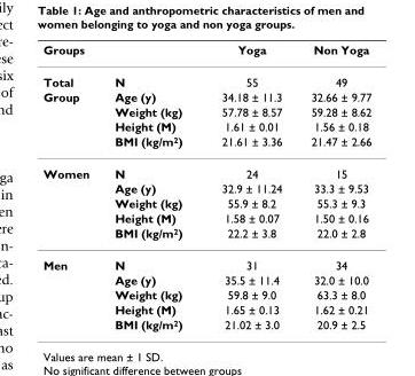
<table><thead><tr><td>Groups</td><td></td><td>Yoga</td><td>Non Yoga</td></tr></thead><tbody><tr><td>Total</td><td>N</td><td>55</td><td>49</td></tr><tr><td rowspan="4">Group</td><td>Age (y)</td><td>34.18 ± 11.3</td><td>32.66 ± 9.77</td></tr><tr><td>Weight (kg)</td><td>57.78 ± 8.57</td><td>59.28 ± 8.62</td></tr><tr><td>Height (M)</td><td>1.61 ± 0.01</td><td>1.56 ± 0.18</td></tr><tr><td>BMI (kg/m<sup>2</sup>)</td><td>21.61 ± 3.36</td><td>21.47 ± 2.66</td></tr><tr><td rowspan="5">Women</td><td>N</td><td>24</td><td>15</td></tr><tr><td>Age (y)</td><td>32.9 ± 11.24</td><td>33.3 ± 9.53</td></tr><tr><td>Weight (kg)</td><td>55.9 ± 8.2</td><td>55.3 ± 9.3</td></tr><tr><td>Height (M)</td><td>1.58 ± 0.07</td><td>1.50 ± 0.16</td></tr><tr><td>BMI (kg/m<sup>2</sup>)</td><td>22.2 ± 3.8</td><td>22.0 ± 2.8</td></tr><tr><td rowspan="5">Men</td><td>N</td><td>31</td><td>34</td></tr><tr><td>Age (y)</td><td>35.5 ± 11.4</td><td>32.0 ± 10.0</td></tr><tr><td>Weight (kg)</td><td>59.8 ± 9.0</td><td>63.3 ± 8.0</td></tr><tr><td>Height (M)</td><td>1.65 ± 0.13</td><td>1.62 ± 0.21</td></tr><tr><td>BMI (kg/m<sup>2</sup>)</td><td>21.02 ± 3.0</td><td>20.9 ± 2.5</td></tr></tbody></table>